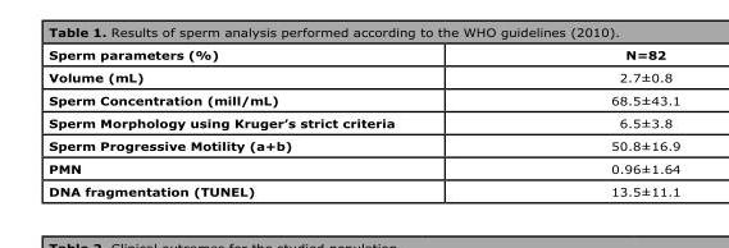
<table><thead><tr><td>Sperm parameters (%)</td><td>N=82</td></tr></thead><tbody><tr><td>Volume (mL)</td><td>2.7±0.8</td></tr><tr><td>Sperm Concentration (mill/mL)</td><td>68.5±43.1</td></tr><tr><td>Sperm Morphology using Kruger’s strict criteria</td><td>6.5±3.8</td></tr><tr><td>Sperm Progressive Motility (a+b)</td><td>50.8±16.9</td></tr><tr><td>PMN</td><td>0.96±1.64</td></tr><tr><td>DNA fragmentation (TUNEL)</td><td>13.5±11.1</td></tr></tbody></table>